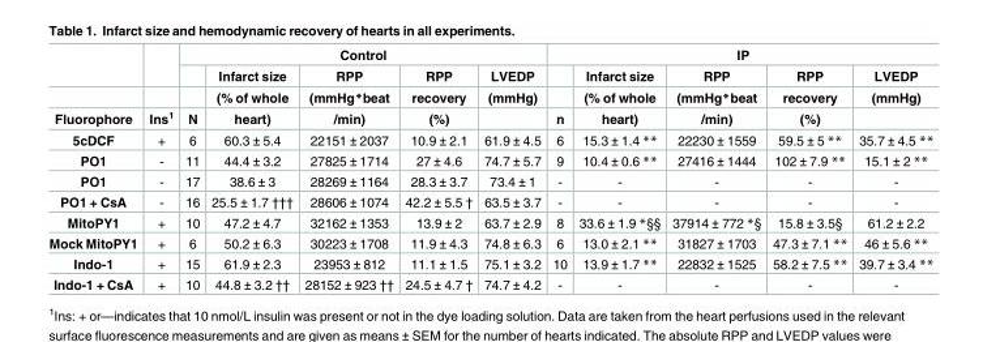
<table><thead><tr><td rowspan="4">Fluorophore</td><td rowspan="4">Ins<sup>1</sup></td><td colspan="5">Control</td><td colspan="5">IP</td></tr><tr><td rowspan="3">N</td><td rowspan="3">Infarct size (% of whole heart)</td><td rowspan="3">RPP (mmHg*beat /min)</td><td rowspan="3">RPP recovery (%)</td><td rowspan="3">LVEDP (mmHg)</td><td rowspan="3">n</td><td rowspan="3">Infarct size (% of whole heart)</td><td rowspan="3">RPP (mmHg*beat /min)</td><td rowspan="3">RPP recovery (%)</td><td rowspan="3">LVEDP (mmHg)</td></tr><tr></tr><tr></tr></thead><tbody><tr><td>5cDCF</td><td>+</td><td>6</td><td>60.3 ± 5.4</td><td>22151 ± 2037</td><td>10.9 ± 2.1</td><td>61.9 ± 4.5</td><td>6</td><td>15.3 ± 1.4 **</td><td>22230 ± 1559</td><td>59.5 ± 5 **</td><td>35.7 ± 4.5 **</td></tr><tr><td>PO1</td><td>-</td><td>11</td><td>44.4 ± 3.2</td><td>27825 ± 1714</td><td>27 ± 4.6</td><td>74.7 ± 5.7</td><td>9</td><td>10.4 ± 0.6 **</td><td>27416 ± 1444</td><td>102 ± 7.9 **</td><td>15.1 ± 2 **</td></tr><tr><td>PO1</td><td>-</td><td>17</td><td>38.6 ± 3</td><td>28269 ± 1164</td><td>28.3 ± 3.7</td><td>73.4 ± 1</td><td>-</td><td>-</td><td>-</td><td>-</td><td>-</td></tr><tr><td>PO1 + CsA</td><td>-</td><td>16</td><td>25.5 ± 1.7 †††</td><td>28606 ± 1074</td><td>42.2 ± 5.5 †</td><td>63.5 ± 3.7</td><td>-</td><td>-</td><td>-</td><td>-</td><td>-</td></tr><tr><td>MitoPY1</td><td>+</td><td>10</td><td>47.2 ± 4.7</td><td>32162 ± 1353</td><td>13.9 ± 2</td><td>63.7 ± 2.9</td><td>8</td><td>33.6 ± 1.9 *§§</td><td>37914 ± 772 *§</td><td>15.8 ± 3.5§</td><td>61.2 ± 2.2</td></tr><tr><td>Mock MitoPY1</td><td>+</td><td>6</td><td>50.2 ± 6.3</td><td>30223 ± 1708</td><td>11.9 ± 4.3</td><td>74.8 ± 6.3</td><td>6</td><td>13.0 ± 2.1 **</td><td>31827 ± 1703</td><td>47.3 ± 7.1 **</td><td>46 ± 5.6 **</td></tr><tr><td>Indo-1</td><td>+</td><td>15</td><td>61.9 ± 2.3</td><td>23953 ± 812</td><td>11.1 ± 1.5</td><td>75.1 ± 3.2</td><td>10</td><td>13.9 ± 1.7 **</td><td>22832 ± 1525</td><td>58.2 ± 7.5 **</td><td>39.7 ± 3.4 **</td></tr><tr><td>Indo-1 + CsA</td><td>+</td><td>10</td><td>44.8 ± 3.2 ††</td><td>28152 ± 923 ††</td><td>24.5 ± 4.7 †</td><td>74.7 ± 4.2</td><td>-</td><td>-</td><td>-</td><td>-</td><td>-</td></tr></tbody></table>